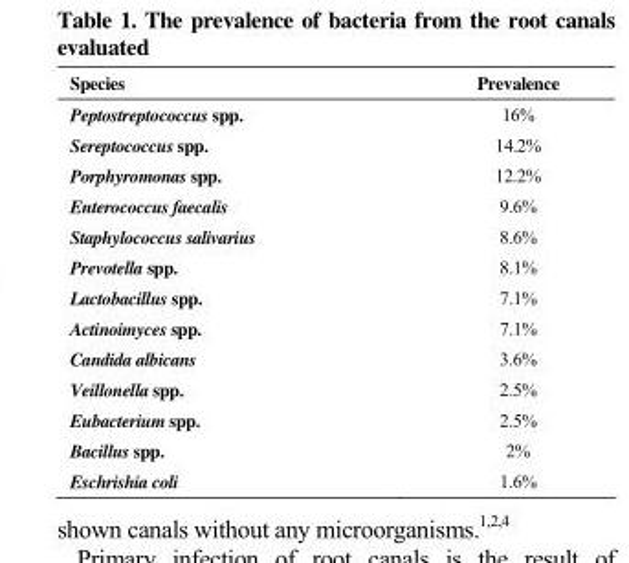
<table><tbody><tr><td>Species</td><td>Prevalence</td></tr><tr><td>Peptostreptococcus spp.</td><td>16%</td></tr><tr><td>Sereptococcus spp.</td><td>14.2%</td></tr><tr><td>Porphyromonas spp.</td><td>12.2%</td></tr><tr><td>Enterococcus faecalis</td><td>9.6%</td></tr><tr><td>Staphylococcus salivarius</td><td>8.6%</td></tr><tr><td>Prevotella spp.</td><td>8.1%</td></tr><tr><td>Lactobacillus spp.</td><td>7.1%</td></tr><tr><td>Actinoimyces spp.</td><td>7.1%</td></tr><tr><td>Candida albicans</td><td>3.6%</td></tr><tr><td>Veillonella spp.</td><td>2.5%</td></tr><tr><td>Eubacterium spp.</td><td>2.5%</td></tr><tr><td>Bacillus spp.</td><td>2%</td></tr><tr><td>Eschrishia coli</td><td>1.6%</td></tr></tbody></table>